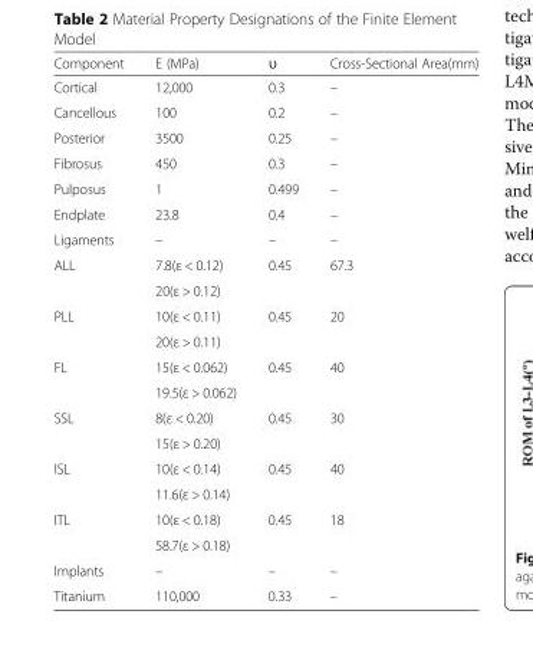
<table><thead><tr><td>Component</td><td>E (MPa)</td><td>ʋ</td><td>Cross-Sectional Area(mm)</td></tr></thead><tbody><tr><td>Cortical</td><td>12,000</td><td>0.3</td><td>–</td></tr><tr><td>Cancellous</td><td>100</td><td>0.2</td><td>–</td></tr><tr><td>Posterior</td><td>3500</td><td>0.25</td><td>–</td></tr><tr><td>Fibrosus</td><td>450</td><td>0.3</td><td>–</td></tr><tr><td>Pulposus</td><td>1</td><td>0.499</td><td>–</td></tr><tr><td>Endplate</td><td>23.8</td><td>0.4</td><td>–</td></tr><tr><td>Ligaments</td><td>–</td><td>–</td><td>–</td></tr><tr><td rowspan="2">ALL</td><td>7.8(ε &lt; 0.12)</td><td rowspan="2">0.45</td><td rowspan="2">67.3</td></tr><tr><td>20(ε &gt; 0.12)</td></tr><tr><td rowspan="2">PLL</td><td>10(ε &lt; 0.11)</td><td rowspan="2">0.45</td><td rowspan="2">20</td></tr><tr><td>20(ε &gt; 0.11)</td></tr><tr><td rowspan="2">FL</td><td>15(ε &lt; 0.062)</td><td rowspan="2">0.45</td><td rowspan="2">40</td></tr><tr><td>19.5(ε &gt; 0.062)</td></tr><tr><td rowspan="2">SSL</td><td>8(ε &lt; 0.20)</td><td rowspan="2">0.45</td><td rowspan="2">30</td></tr><tr><td>15(ε &gt; 0.20)</td></tr><tr><td rowspan="2">ISL</td><td>10(ε &lt; 0.14)</td><td rowspan="2">0.45</td><td rowspan="2">40</td></tr><tr><td>11.6(ε &gt; 0.14)</td></tr><tr><td rowspan="2">ITL</td><td>10(ε &lt; 0.18)</td><td rowspan="2">0.45</td><td rowspan="2">18</td></tr><tr><td>58.7(ε &gt; 0.18)</td></tr><tr><td>Implants</td><td>–</td><td>–</td><td>–</td></tr><tr><td>Titanium</td><td>110,000</td><td>0.33</td><td>–</td></tr></tbody></table>